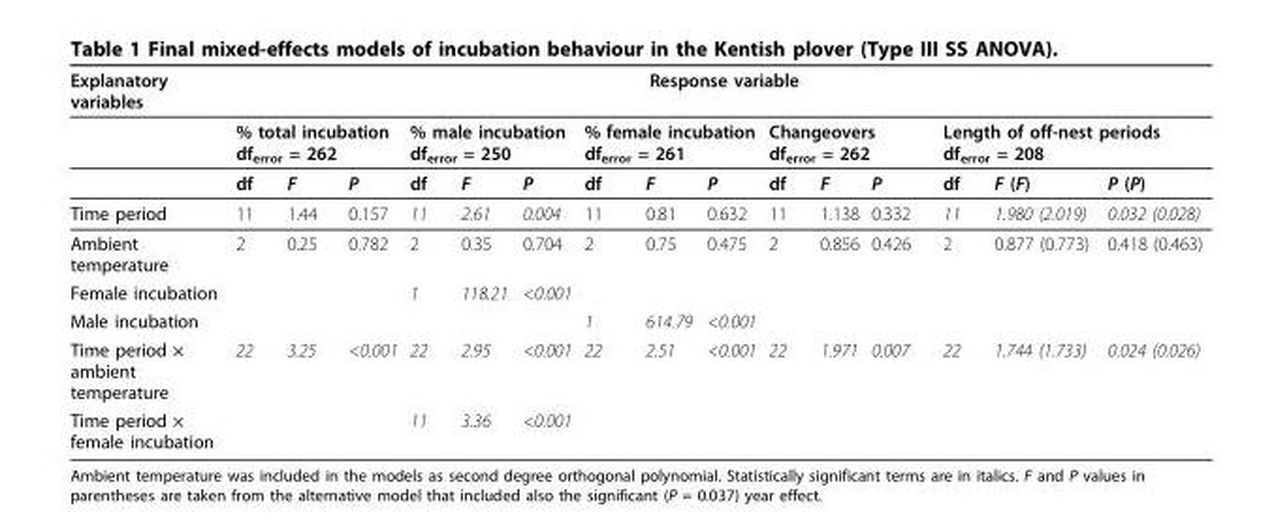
<table><tbody><tr><td rowspan="3">Explanatory variables</td><td colspan="15">Response variable</td></tr><tr><td colspan="3">% total incubation df<sub>error</sub> = 262</td><td colspan="3">% male incubation df<sub>error</sub> = 250</td><td colspan="3">% female incubation df<sub>error</sub> = 261</td><td colspan="3">Changeovers df<sub>error</sub> = 262</td><td colspan="3">Length of off-nest periods df<sub>error</sub> = 208</td></tr><tr><td>df</td><td>F</td><td>P</td><td>df</td><td>F</td><td>P</td><td>df</td><td>F</td><td>P</td><td>df</td><td>F</td><td>P</td><td>df</td><td>F (F)</td><td>P (P)</td></tr><tr><td>Time period</td><td>11</td><td>1.44</td><td>0.157</td><td>11</td><td>2.61</td><td>0.004</td><td>11</td><td>0.81</td><td>0.632</td><td>11</td><td>1.138</td><td>0.332</td><td>11</td><td>1.980 (2.019)</td><td>0.032 (0.028)</td></tr><tr><td>Ambient temperature</td><td>2</td><td>0.25</td><td>0.782</td><td>2</td><td>0.35</td><td>0.704</td><td>2</td><td>0.75</td><td>0.475</td><td>2</td><td>0.856</td><td>0.426</td><td>2</td><td>0.877 (0.773)</td><td>0.418 (0.463)</td></tr><tr><td>Female incubation</td><td></td><td></td><td></td><td>1</td><td>118.21</td><td>&lt;0.001</td><td></td><td></td><td></td><td></td><td></td><td></td><td></td><td></td><td></td></tr><tr><td>Male incubation</td><td></td><td></td><td></td><td></td><td></td><td></td><td>1</td><td>614.79</td><td>&lt;0.001</td><td></td><td></td><td></td><td></td><td></td><td></td></tr><tr><td>Time period × ambient temperature</td><td>22</td><td>3.25</td><td>&lt;0.001</td><td>22</td><td>2.95</td><td>&lt;0.001</td><td>22</td><td>2.51</td><td>&lt;0.001</td><td>22</td><td>1.971</td><td>0.007</td><td>22</td><td>1.744 (1.733)</td><td>0.024 (0.026)</td></tr><tr><td>Time period × female incubation</td><td></td><td></td><td></td><td>11</td><td>3.36</td><td>&lt;0.001</td><td></td><td></td><td></td><td></td><td></td><td></td><td></td><td></td><td></td></tr></tbody></table>